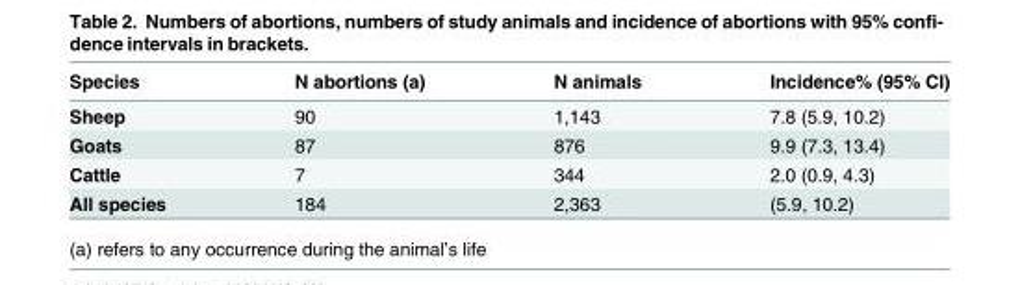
<table><thead><tr><td>Species</td><td>N abortions (a)</td><td>N animals</td><td>Incidence% (95% CI)</td></tr></thead><tbody><tr><td>Sheep</td><td>90</td><td>1,143</td><td>7.8 (5.9, 10.2)</td></tr><tr><td>Goats</td><td>87</td><td>876</td><td>9.9 (7.3, 13.4)</td></tr><tr><td>Cattle</td><td>7</td><td>344</td><td>2.0 (0.9, 4.3)</td></tr><tr><td>All species</td><td>184</td><td>2,363</td><td>(5.9, 10.2)</td></tr></tbody></table>